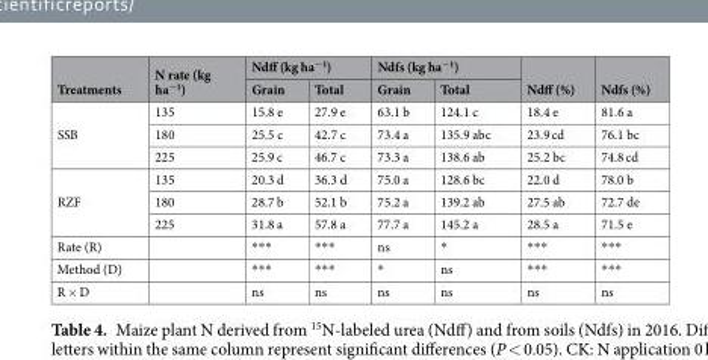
<table><thead><tr><td rowspan="2">Treatments</td><td rowspan="2">N rate (kg ha<sup>−1</sup>)</td><td colspan="2">Ndff (kg ha<sup>−1</sup>)</td><td colspan="2">Ndfs (kg ha<sup>−1</sup>)</td><td rowspan="2">Ndff (%)</td><td rowspan="2">Ndfs (%)</td></tr><tr><td>Grain</td><td>Total</td><td>Grain</td><td>Total</td></tr></thead><tbody><tr><td rowspan="3">SSB</td><td>135</td><td>15.8 e</td><td>27.9 e</td><td>63.1 b</td><td>124.1 c</td><td>18.4 e</td><td>81.6 a</td></tr><tr><td>180</td><td>25.5 c</td><td>42.7 c</td><td>73.4 a</td><td>135.9 abc</td><td>23.9 cd</td><td>76.1 bc</td></tr><tr><td>225</td><td>25.9 c</td><td>46.7 c</td><td>73.3 a</td><td>138.6 ab</td><td>25.2 bc</td><td>74.8 cd</td></tr><tr><td rowspan="3">RZF</td><td>135</td><td>20.3 d</td><td>36.3 d</td><td>75.0 a</td><td>128.6 bc</td><td>22.0 d</td><td>78.0 b</td></tr><tr><td>180</td><td>28.7 b</td><td>52.1 b</td><td>75.2 a</td><td>139.2 ab</td><td>27.5 ab</td><td>72.7 de</td></tr><tr><td>225</td><td>31.8 a</td><td>57.8 a</td><td>77.7 a</td><td>145.2 a</td><td>28.5 a</td><td>71.5 e</td></tr><tr><td>Rate (R)</td><td></td><td>***</td><td>***</td><td>ns</td><td>*</td><td>***</td><td>***</td></tr><tr><td>Method (D)</td><td></td><td>***</td><td>***</td><td>*</td><td>ns</td><td>***</td><td>***</td></tr><tr><td>R × D</td><td></td><td>ns</td><td>ns</td><td>ns</td><td>ns</td><td>ns</td><td>ns</td></tr></tbody></table>